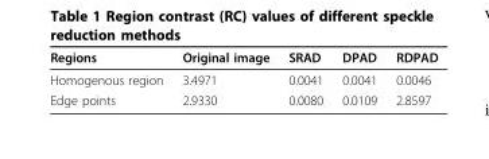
<table><thead><tr><td>Regions</td><td>Original image</td><td>SRAD</td><td>DPAD</td><td>RDPAD</td></tr></thead><tbody><tr><td>Homogenous region</td><td>3.4971</td><td>0.0041</td><td>0.0041</td><td>0.0046</td></tr><tr><td>Edge points</td><td>2.9330</td><td>0.0080</td><td>0.0109</td><td>2.8597</td></tr></tbody></table>